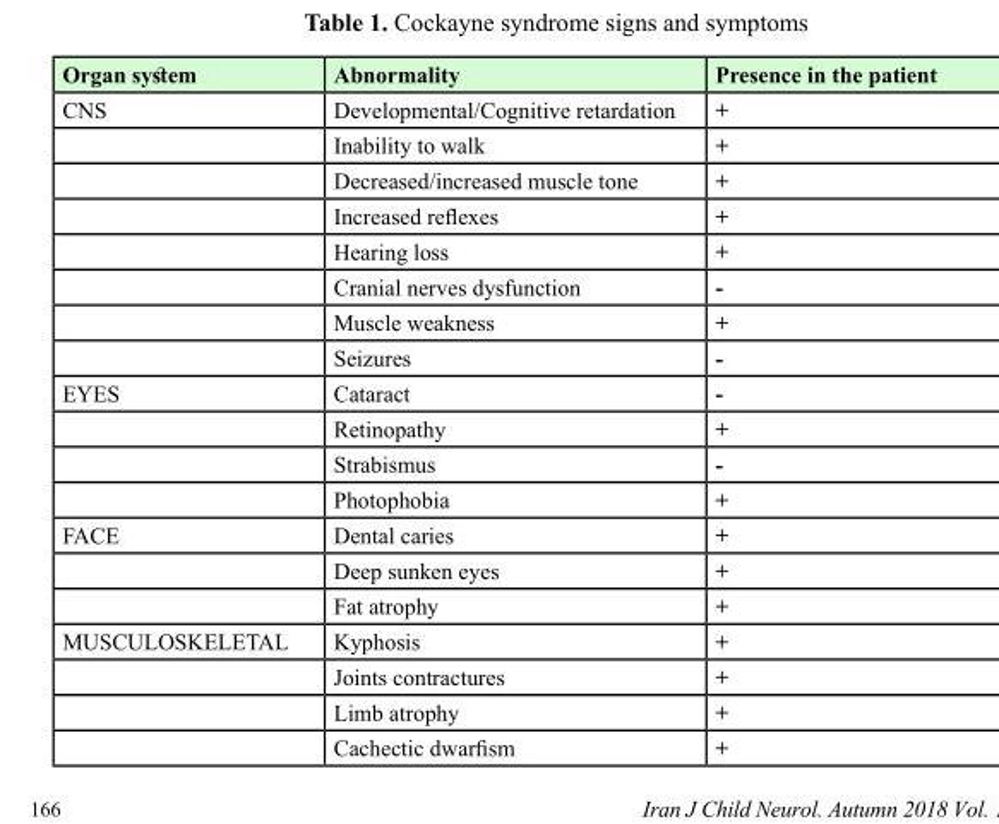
<table><thead><tr><td>Organ system</td><td>Abnormality</td><td>Presence in the patient</td></tr></thead><tbody><tr><td rowspan="8">CNS</td><td>Developmental/Cognitive retardation</td><td>+</td></tr><tr><td>Inability to walk</td><td>+</td></tr><tr><td>Decreased/increased muscle tone</td><td>+</td></tr><tr><td>Increased reflexes</td><td>+</td></tr><tr><td>Hearing loss</td><td>+</td></tr><tr><td>Cranial nerves dysfunction</td><td>-</td></tr><tr><td>Muscle weakness</td><td>+</td></tr><tr><td>Seizures</td><td>-</td></tr><tr><td rowspan="4">EYES</td><td>Cataract</td><td>-</td></tr><tr><td>Retinopathy</td><td>+</td></tr><tr><td>Strabismus</td><td>-</td></tr><tr><td>Photophobia</td><td>+</td></tr><tr><td rowspan="3">FACE</td><td>Dental caries</td><td>+</td></tr><tr><td>Deep sunken eyes</td><td>+</td></tr><tr><td>Fat atrophy</td><td>+</td></tr><tr><td rowspan="4">MUSCULOSKELETAL</td><td>Kyphosis</td><td>+</td></tr><tr><td>Joints contractures</td><td>+</td></tr><tr><td>Limb atrophy</td><td>+</td></tr><tr><td>Cachectic dwarfism</td><td>+</td></tr></tbody></table>